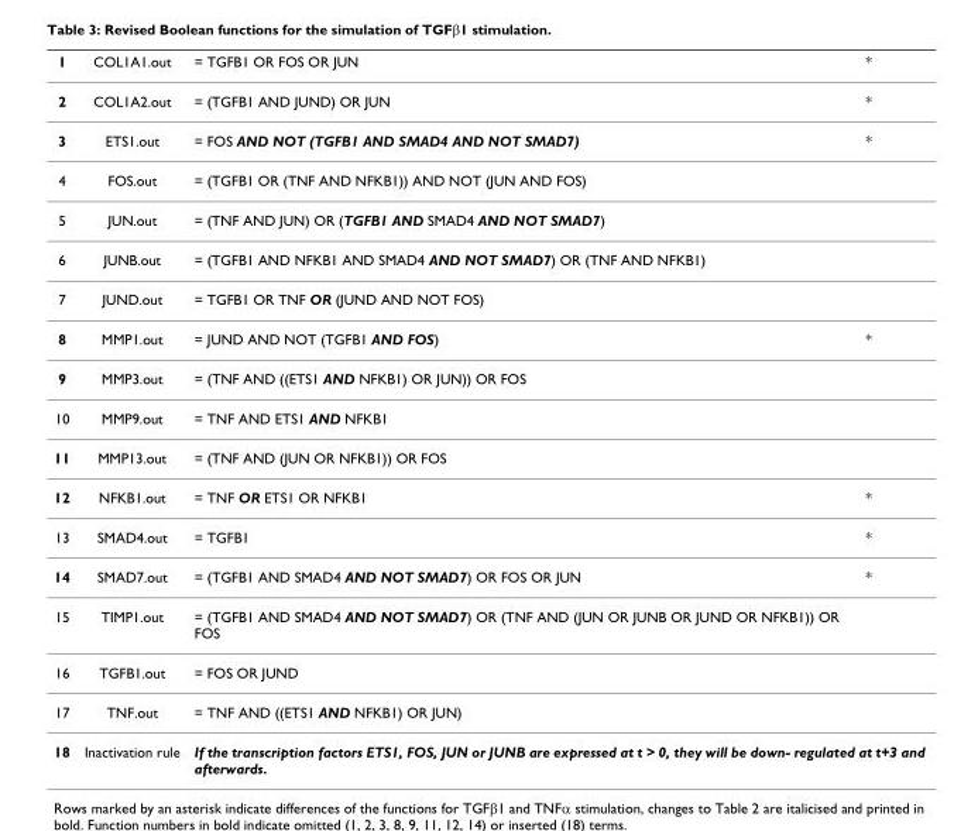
<table><thead><tr><td>1</td><td>COL1A1.out</td><td>= TGFB1 OR FOS OR JUN</td><td>*</td></tr></thead><tbody><tr><td>2</td><td>COL1A2.out</td><td>= (TGFB1 AND JUND) OR JUN</td><td>*</td></tr><tr><td>3</td><td>ETS1.out</td><td>= FOS AND NOT (TGFB1 AND SMAD4 AND NOT SMAD7)</td><td>*</td></tr><tr><td>4</td><td>FOS.out</td><td>= (TGFB1 OR (TNF AND NFKB1)) AND NOT (JUN AND FOS)</td><td></td></tr><tr><td>5</td><td>JUN.out</td><td>= (TNF AND JUN) OR (TGFB1 AND SMAD4 AND NOT SMAD7)</td><td></td></tr><tr><td>6</td><td>JUNB.out</td><td>= (TGFB1 AND NFKB1 AND SMAD4 AND NOT SMAD7) OR (TNF AND NFKB1)</td><td></td></tr><tr><td>7</td><td>JUND.out</td><td>= TGFB1 OR TNF OR (JUND AND NOT FOS)</td><td></td></tr><tr><td>8</td><td>MMP1.out</td><td>= JUND AND NOT (TGFB1 AND FOS)</td><td>*</td></tr><tr><td>9</td><td>MMP3.out</td><td>= (TNF AND ((ETS1 AND NFKB1) OR JUN)) OR FOS</td><td></td></tr><tr><td>10</td><td>MMP9.out</td><td>= TNF AND ETS1 AND NFKB1</td><td></td></tr><tr><td>11</td><td>MMP13.out</td><td>= (TNF AND (JUN OR NFKB1)) OR FOS</td><td></td></tr><tr><td>12</td><td>NFKB1.out</td><td>= TNF OR ETS1 OR NFKB1</td><td>*</td></tr><tr><td>13</td><td>SMAD4.out</td><td>= TGFB1</td><td>*</td></tr><tr><td>14</td><td>SMAD7.out</td><td>= (TGFB1 AND SMAD4 AND NOT SMAD7) OR FOS OR JUN</td><td>*</td></tr><tr><td>15</td><td>TIMP1.out</td><td>= (TGFB1 AND SMAD4 AND NOT SMAD7) OR (TNF AND (JUN OR JUNB OR JUND OR NFKB1)) OR FOS</td><td></td></tr><tr><td>16</td><td>TGFB1.out</td><td>= FOS OR JUND</td><td></td></tr><tr><td>17</td><td>TNF.out</td><td>= TNF AND ((ETS1 AND NFKB1) OR JUN)</td><td></td></tr><tr><td>18</td><td>Inactivation rule</td><td colspan="2">If the transcription factors ETS1, FOS, JUN or JUNB are expressed at t &gt; 0, they will be down- regulated at t+3 and afterwards.</td></tr></tbody></table>